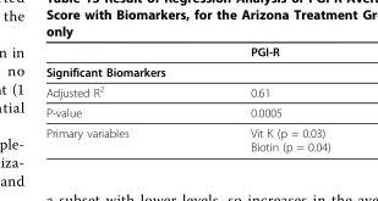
<table><thead><tr><td></td><td>PGI-R</td></tr></thead><tbody><tr><td colspan="2">Significant Biomarkers</td></tr><tr><td>Adjusted R<sup>2</sup></td><td>0.61</td></tr><tr><td>P-value</td><td>0.0005</td></tr><tr><td>Primary variables</td><td>Vit K (p = 0.03) Biotin (p = 0.04)</td></tr></tbody></table>